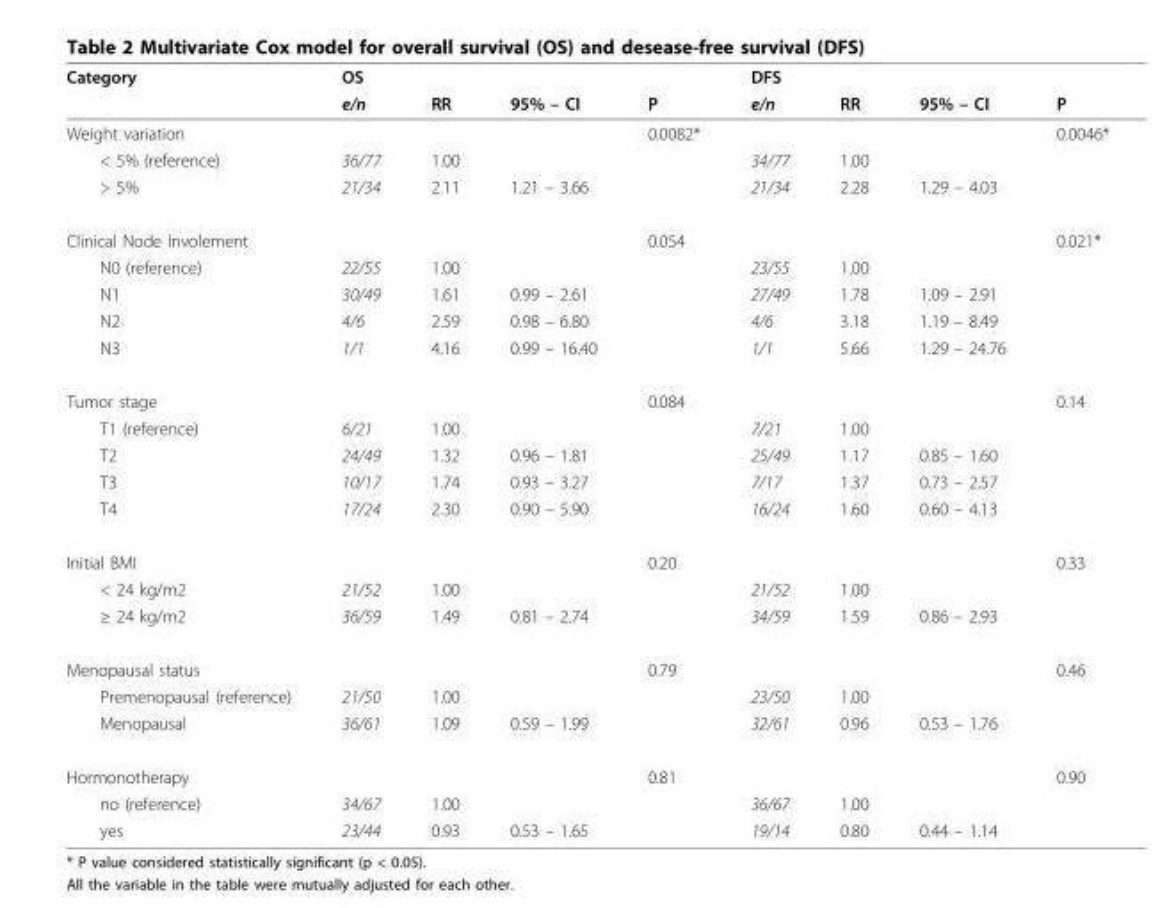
<table><thead><tr><td rowspan="2">Category</td><td colspan="4">OS</td><td colspan="4">DFS</td></tr><tr><td>e/n</td><td>RR</td><td>95% – CI</td><td>P</td><td>e/n</td><td>RR</td><td>95% – CI</td><td>P</td></tr></thead><tbody><tr><td>Weight variation</td><td></td><td></td><td></td><td>0.0082*</td><td></td><td></td><td></td><td>0.0046*</td></tr><tr><td>&lt; 5% (reference)</td><td>36/77</td><td>1.00</td><td></td><td></td><td>34/77</td><td>1.00</td><td></td><td></td></tr><tr><td>&gt; 5%</td><td>21/34</td><td>2.11</td><td>1.21 – 3.66</td><td></td><td>21/34</td><td>2.28</td><td>1.29 – 4.03</td><td></td></tr><tr><td>Clinical Node Involement</td><td></td><td></td><td></td><td>0.054</td><td></td><td></td><td></td><td>0.021*</td></tr><tr><td>N0 (reference)</td><td>22/55</td><td>1.00</td><td></td><td></td><td>23/55</td><td>1.00</td><td></td><td></td></tr><tr><td>N1</td><td>30/49</td><td>1.61</td><td>0.99 – 2.61</td><td></td><td>27/49</td><td>1.78</td><td>1.09 – 2.91</td><td></td></tr><tr><td>N2</td><td>4/6</td><td>2.59</td><td>0.98 – 6.80</td><td></td><td>4/6</td><td>3.18</td><td>1.19 – 8.49</td><td></td></tr><tr><td>N3</td><td>1/1</td><td>4.16</td><td>0.99 – 16.40</td><td></td><td>1/1</td><td>5.66</td><td>1.29 – 24.76</td><td></td></tr><tr><td>Tumor stage</td><td></td><td></td><td></td><td>0.084</td><td></td><td></td><td></td><td>0.14</td></tr><tr><td>T1 (reference)</td><td>6/21</td><td>1.00</td><td></td><td></td><td>7/21</td><td>1.00</td><td></td><td></td></tr><tr><td>T2</td><td>24/49</td><td>1.32</td><td>0.96 – 1.81</td><td></td><td>25/49</td><td>1.17</td><td>0.85 – 1.60</td><td></td></tr><tr><td>T3</td><td>10/17</td><td>1.74</td><td>0.93 – 3.27</td><td></td><td>7/17</td><td>1.37</td><td>0.73 – 2.57</td><td></td></tr><tr><td>T4</td><td>17/24</td><td>2.30</td><td>0.90 – 5.90</td><td></td><td>16/24</td><td>1.60</td><td>0.60 – 4.13</td><td></td></tr><tr><td>Initial BMI</td><td></td><td></td><td></td><td>0.20</td><td></td><td></td><td></td><td>0.33</td></tr><tr><td>&lt; 24 kg/m2</td><td>21/52</td><td>1.00</td><td></td><td></td><td>21/52</td><td>1.00</td><td></td><td></td></tr><tr><td>≥ 24 kg/m2</td><td>36/59</td><td>1.49</td><td>0.81 – 2.74</td><td></td><td>34/59</td><td>1.59</td><td>0.86 – 2.93</td><td></td></tr><tr><td>Menopausal status</td><td></td><td></td><td></td><td>0.79</td><td></td><td></td><td></td><td>0.46</td></tr><tr><td>Premenopausal (reference)</td><td>21/50</td><td>1.00</td><td></td><td></td><td>23/50</td><td>1.00</td><td></td><td></td></tr><tr><td>Menopausal</td><td>36/61</td><td>1.09</td><td>0.59 – 1.99</td><td></td><td>32/61</td><td>0.96</td><td>0.53 – 1.76</td><td></td></tr><tr><td>Hormonotherapy</td><td></td><td></td><td></td><td>0.81</td><td></td><td></td><td></td><td>0.90</td></tr><tr><td>no (reference)</td><td>34/67</td><td>1.00</td><td></td><td></td><td>36/67</td><td>1.00</td><td></td><td></td></tr><tr><td>yes</td><td>23/44</td><td>0.93</td><td>0.53 – 1.65</td><td></td><td>19/14</td><td>0.80</td><td>0.44 – 1.14</td><td></td></tr></tbody></table>